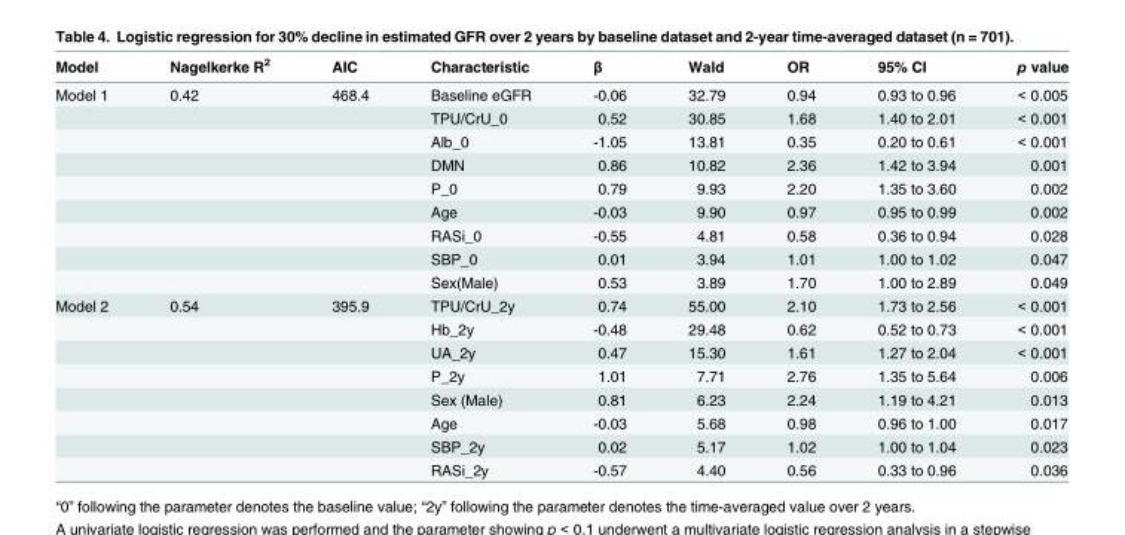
<table><thead><tr><td>Model</td><td>Nagelkerke R<sup>2</sup></td><td>AIC</td><td>Characteristic</td><td>β</td><td>Wald</td><td>OR</td><td>95% CI</td><td>p value</td></tr></thead><tbody><tr><td rowspan="9">Model 1</td><td>0.42</td><td>468.4</td><td>Baseline eGFR</td><td>-0.06</td><td>32.79</td><td>0.94</td><td>0.93 to 0.96</td><td>&lt; 0.005</td></tr><tr><td></td><td></td><td>TPU/CrU_0</td><td>0.52</td><td>30.85</td><td>1.68</td><td>1.40 to 2.01</td><td>&lt; 0.001</td></tr><tr><td></td><td></td><td>Alb_0</td><td>-1.05</td><td>13.81</td><td>0.35</td><td>0.20 to 0.61</td><td>&lt; 0.001</td></tr><tr><td></td><td></td><td>DMN</td><td>0.86</td><td>10.82</td><td>2.36</td><td>1.42 to 3.94</td><td>0.001</td></tr><tr><td></td><td></td><td>P_0</td><td>0.79</td><td>9.93</td><td>2.20</td><td>1.35 to 3.60</td><td>0.002</td></tr><tr><td></td><td></td><td>Age</td><td>-0.03</td><td>9.90</td><td>0.97</td><td>0.95 to 0.99</td><td>0.002</td></tr><tr><td></td><td></td><td>RASi_0</td><td>-0.55</td><td>4.81</td><td>0.58</td><td>0.36 to 0.94</td><td>0.028</td></tr><tr><td></td><td></td><td>SBP_0</td><td>0.01</td><td>3.94</td><td>1.01</td><td>1.00 to 1.02</td><td>0.047</td></tr><tr><td></td><td></td><td>Sex(Male)</td><td>0.53</td><td>3.89</td><td>1.70</td><td>1.00 to 2.89</td><td>0.049</td></tr><tr><td rowspan="8">Model 2</td><td>0.54</td><td>395.9</td><td>TPU/CrU_2y</td><td>0.74</td><td>55.00</td><td>2.10</td><td>1.73 to 2.56</td><td>&lt; 0.001</td></tr><tr><td></td><td></td><td>Hb_2y</td><td>-0.48</td><td>29.48</td><td>0.62</td><td>0.52 to 0.73</td><td>&lt; 0.001</td></tr><tr><td></td><td></td><td>UA_2y</td><td>0.47</td><td>15.30</td><td>1.61</td><td>1.27 to 2.04</td><td>&lt; 0.001</td></tr><tr><td></td><td></td><td>P_2y</td><td>1.01</td><td>7.71</td><td>2.76</td><td>1.35 to 5.64</td><td>0.006</td></tr><tr><td></td><td></td><td>Sex (Male)</td><td>0.81</td><td>6.23</td><td>2.24</td><td>1.19 to 4.21</td><td>0.013</td></tr><tr><td></td><td></td><td>Age</td><td>-0.03</td><td>5.68</td><td>0.98</td><td>0.96 to 1.00</td><td>0.017</td></tr><tr><td></td><td></td><td>SBP_2y</td><td>0.02</td><td>5.17</td><td>1.02</td><td>1.00 to 1.04</td><td>0.023</td></tr><tr><td></td><td></td><td>RASi_2y</td><td>-0.57</td><td>4.40</td><td>0.56</td><td>0.33 to 0.96</td><td>0.036</td></tr></tbody></table>